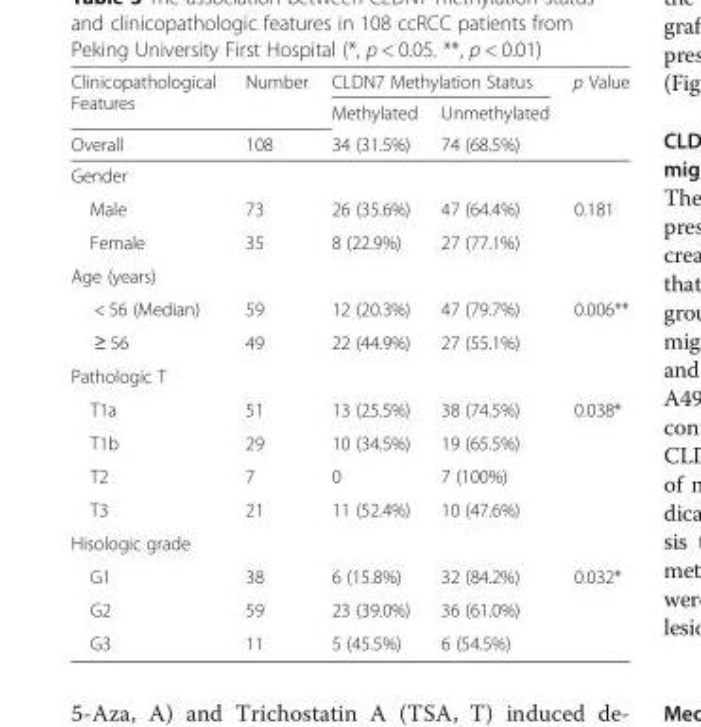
<table><thead><tr><td rowspan="3">Clinicopathological Features Overall</td><td rowspan="3">Number 108</td><td colspan="2">CLDN7 Methylation Status</td><td rowspan="3">p Value</td></tr><tr><td rowspan="2">Methylated 34 (31.5%)</td><td rowspan="2">Unmethylated 74 (68.5%)</td></tr><tr></tr></thead><tbody><tr><td colspan="5">Gender</td></tr><tr><td>Male</td><td>73</td><td>26 (35.6%)</td><td>47 (64.4%)</td><td rowspan="2">0.181</td></tr><tr><td>Female</td><td>35</td><td>8 (22.9%)</td><td>27 (77.1%)</td></tr><tr><td colspan="5">Age (years)</td></tr><tr><td>&lt; 56 (Median)</td><td>59</td><td>12 (20.3%)</td><td>47 (79.7%)</td><td rowspan="2">0.006**</td></tr><tr><td>≥ 56</td><td>49</td><td>22 (44.9%)</td><td>27 (55.1%)</td></tr><tr><td colspan="5">Pathologic T</td></tr><tr><td>T1a</td><td>51</td><td>13 (25.5%)</td><td>38 (74.5%)</td><td rowspan="4">0.038*</td></tr><tr><td>T1b</td><td>29</td><td>10 (34.5%)</td><td>19 (65.5%)</td></tr><tr><td>T2</td><td>7</td><td>0</td><td>7 (100%)</td></tr><tr><td>T3</td><td>21</td><td>11 (52.4%)</td><td>10 (47.6%)</td></tr><tr><td colspan="5">Hisologic grade</td></tr><tr><td>G1</td><td>38</td><td>6 (15.8%)</td><td>32 (84.2%)</td><td rowspan="3">0.032*</td></tr><tr><td>G2</td><td>59</td><td>23 (39.0%)</td><td>36 (61.0%)</td></tr><tr><td>G3</td><td>11</td><td>5 (45.5%)</td><td>6 (54.5%)</td></tr></tbody></table>